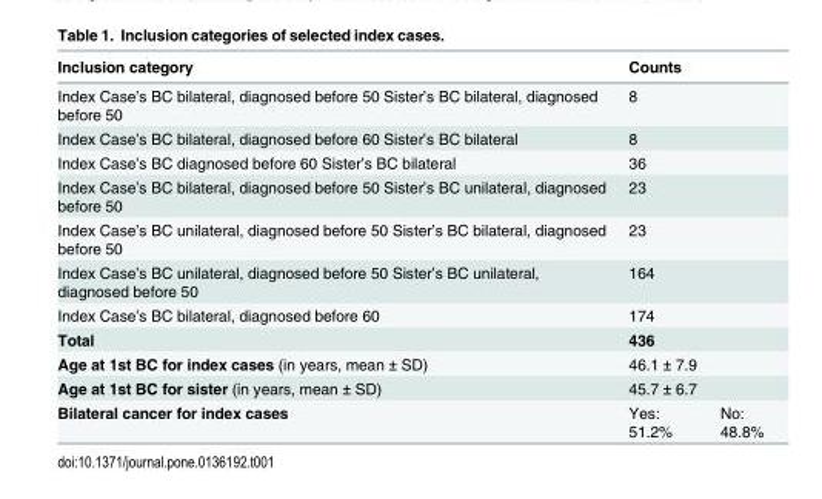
<table><thead><tr><td>Inclusion category</td><td colspan="2">Counts</td></tr></thead><tbody><tr><td>Index Case’s BC bilateral, diagnosed before 50 Sister’s BC bilateral, diagnosed before 50</td><td colspan="2">8</td></tr><tr><td>Index Case’s BC bilateral, diagnosed before 60 Sister’s BC bilateral</td><td colspan="2">8</td></tr><tr><td>Index Case’s BC diagnosed before 60 Sister’s BC bilateral</td><td colspan="2">36</td></tr><tr><td>Index Case’s BC bilateral, diagnosed before 50 Sister’s BC unilateral, diagnosed before 50</td><td colspan="2">23</td></tr><tr><td>Index Case’s BC unilateral, diagnosed before 50 Sister’s BC bilateral, diagnosed before 50</td><td colspan="2">23</td></tr><tr><td>Index Case’s BC unilateral, diagnosed before 50 Sister’s BC unilateral, diagnosed before 50</td><td colspan="2">164</td></tr><tr><td>Index Case’s BC bilateral, diagnosed before 60</td><td colspan="2">174</td></tr><tr><td>Total</td><td colspan="2">436</td></tr><tr><td>Age at 1st BC for index cases (in years, mean ± SD)</td><td colspan="2">46.1 ± 7.9</td></tr><tr><td>Age at 1st BC for sister (in years, mean ± SD)</td><td colspan="2">45.7 ± 6.7</td></tr><tr><td>Bilateral cancer for index cases</td><td>Yes: 51.2%</td><td>No: 48.8%</td></tr></tbody></table>